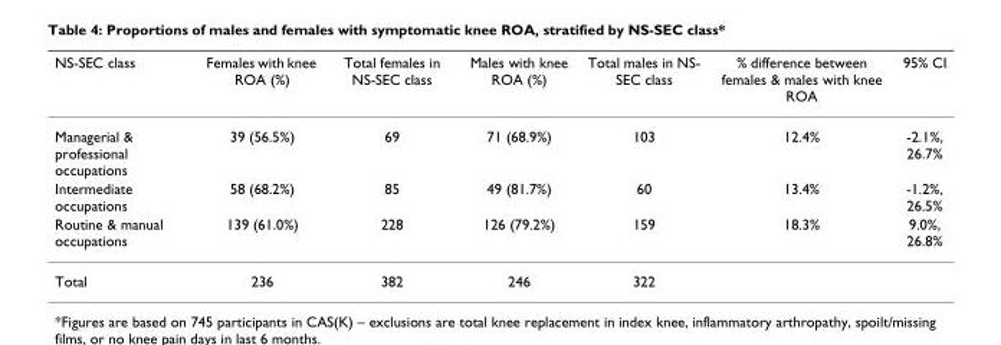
<table><thead><tr><td>NS-SEC class</td><td>Females with knee ROA (%)</td><td>Total females in NS-SEC class</td><td>Males with knee ROA (%)</td><td>Total males in NS- SEC class</td><td>% difference between females &amp; males with knee ROA</td><td>95% CI</td></tr></thead><tbody><tr><td>Managerial &amp; professional occupations</td><td>39 (56.5%)</td><td>69</td><td>71 (68.9%)</td><td>103</td><td>12.4%</td><td>-2.1%, 26.7%</td></tr><tr><td>Intermediate occupations</td><td>58 (68.2%)</td><td>85</td><td>49 (81.7%)</td><td>60</td><td>13.4%</td><td>-1.2%, 26.5%</td></tr><tr><td>Routine &amp; manual occupations</td><td>139 (61.0%)</td><td>228</td><td>126 (79.2%)</td><td>159</td><td>18.3%</td><td>9.0%, 26.8%</td></tr><tr><td>Total</td><td>236</td><td>382</td><td>246</td><td>322</td><td></td><td></td></tr></tbody></table>